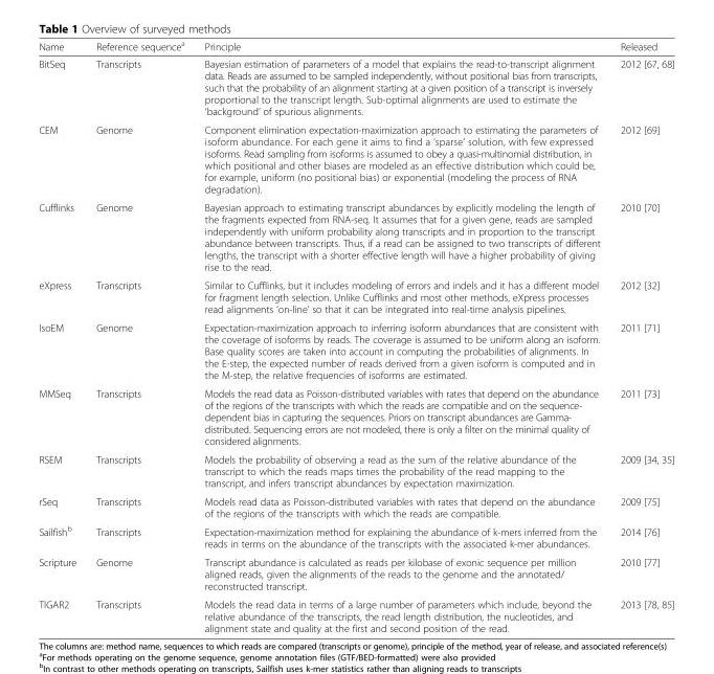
<table><thead><tr><td>Name</td><td>Reference sequence<sup>a</sup></td><td>Principle</td><td>Released</td></tr></thead><tbody><tr><td>BitSeq</td><td>Transcripts</td><td>Bayesian estimation of parameters of a model that explains the read-to-transcript alignment data. Reads are assumed to be sampled independently, without positional bias from transcripts, such that the probability of an alignment starting at a given position of a transcript is inversely proportional to the transcript length. Sub-optimal alignments are used to estimate the ‘background’ of spurious alignments.</td><td>2012 [67, 68]</td></tr><tr><td>CEM</td><td>Genome</td><td>Component elimination expectation-maximization approach to estimating the parameters of isoform abundance. For each gene it aims to find a ‘sparse’ solution, with few expressed isoforms. Read sampling from isoforms is assumed to obey a quasi-multinomial distribution, in which positional and other biases are modeled as an effective distribution which could be, for example, uniform (no positional bias) or exponential (modeling the process of RNA degradation).</td><td>2012 [69]</td></tr><tr><td>Cufflinks</td><td>Genome</td><td>Bayesian approach to estimating transcript abundances by explicitly modeling the length of the fragments expected from RNA-seq. It assumes that for a given gene, reads are sampled independently with uniform probability along transcripts and in proportion to the transcript abundance between transcripts. Thus, if a read can be assigned to two transcripts of different lengths, the transcript with a shorter effective length will have a higher probability of giving rise to the read.</td><td>2010 [70]</td></tr><tr><td>eXpress</td><td>Transcripts</td><td>Similar to Cufflinks, but it includes modeling of errors and indels and it has a different model for fragment length selection. Unlike Cufflinks and most other methods, eXpress processes read alignments ‘on-line’ so that it can be integrated into real-time analysis pipelines.</td><td>2012 [32]</td></tr><tr><td>IsoEM</td><td>Genome</td><td>Expectation-maximization approach to inferring isoform abundances that are consistent with the coverage of isoforms by reads. The coverage is assumed to be uniform along an isoform. Base quality scores are taken into account in computing the probabilities of alignments. In the E-step, the expected number of reads derived from a given isoform is computed and in the M-step, the relative frequencies of isoforms are estimated.</td><td>2011 [71]</td></tr><tr><td>MMSeq</td><td>Transcripts</td><td>Models the read data as Poisson-distributed variables with rates that depend on the abundance of the regions of the transcripts with which the reads are compatible and on the sequence- dependent bias in capturing the sequences. Priors on transcript abundances are Gamma- distributed. Sequencing errors are not modeled, there is only a filter on the minimal quality of considered alignments.</td><td>2011 [73]</td></tr><tr><td>RSEM</td><td>Transcripts</td><td>Models the probability of observing a read as the sum of the relative abundance of the transcript to which the reads maps times the probability of the read mapping to the transcript, and infers transcript abundances by expectation maximization.</td><td>2009 [34, 35]</td></tr><tr><td>rSeq</td><td>Transcripts</td><td>Models read data as Poisson-distributed variables with rates that depend on the abundance of the regions of the transcripts with which the reads are compatible.</td><td>2009 [75]</td></tr><tr><td>Sailfish<sup>b</sup></td><td>Transcripts</td><td>Expectation-maximization method for explaining the abundance of k-mers inferred from the reads in terms on the abundance of the transcripts with the associated k-mer abundances.</td><td>2014 [76]</td></tr><tr><td>Scripture</td><td>Genome</td><td>Transcript abundance is calculated as reads per kilobase of exonic sequence per million aligned reads, given the alignments of the reads to the genome and the annotated/ reconstructed transcript.</td><td>2010 [77]</td></tr><tr><td>TIGAR2</td><td>Transcripts</td><td>Models the read data in terms of a large number of parameters which include, beyond the relative abundance of the transcripts, the read length distribution, the nucleotides, and alignment state and quality at the first and second position of the read.</td><td>2013 [78, 85]</td></tr></tbody></table>